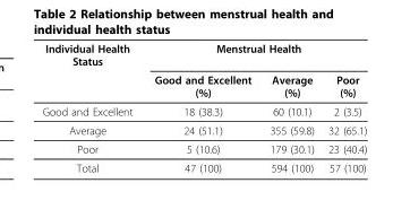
<table><thead><tr><td rowspan="2">Individual Health Status</td><td colspan="3">Menstrual Health</td></tr><tr><td>Good and Excellent (%)</td><td>Average (%)</td><td>Poor (%)</td></tr></thead><tbody><tr><td>Good and Excellent</td><td>18 (38.3)</td><td>60 (10.1)</td><td>2 (3.5)</td></tr><tr><td>Average</td><td>24 (51.1)</td><td>355 (59.8)</td><td>32 (65.1)</td></tr><tr><td>Poor</td><td>5 (10.6)</td><td>179 (30.1)</td><td>23 (40.4)</td></tr><tr><td>Total</td><td>47 (100)</td><td>594 (100)</td><td>57 (100)</td></tr></tbody></table>